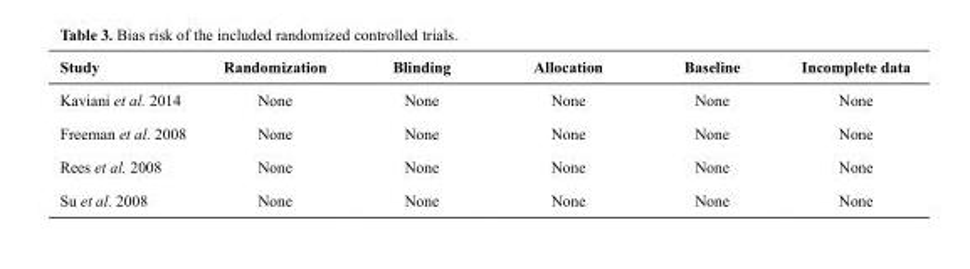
<table><thead><tr><td>Study</td><td>Randomization</td><td>Blinding</td><td>Allocation</td><td>Baseline</td><td>Incomplete data</td></tr></thead><tbody><tr><td>Kaviani et al. 2014</td><td>None</td><td>None</td><td>None</td><td>None</td><td>None</td></tr><tr><td>Freeman et al. 2008</td><td>None</td><td>None</td><td>None</td><td>None</td><td>None</td></tr><tr><td>Rees et al. 2008</td><td>None</td><td>None</td><td>None</td><td>None</td><td>None</td></tr><tr><td>Su et al. 2008</td><td>None</td><td>None</td><td>None</td><td>None</td><td>None</td></tr></tbody></table>